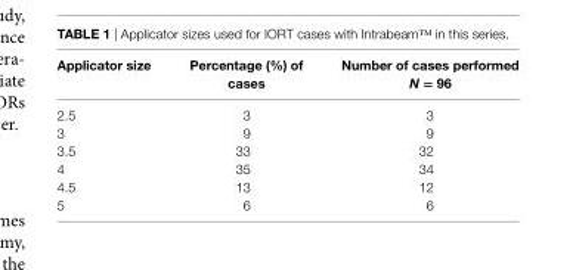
<table><thead><tr><td>applicator size</td><td>Percentage (%) of cases</td><td>number of cases performed N = 96</td></tr></thead><tbody><tr><td>2.5</td><td>3</td><td>3</td></tr><tr><td>3</td><td>9</td><td>9</td></tr><tr><td>3.5</td><td>33</td><td>32</td></tr><tr><td>4</td><td>35</td><td>34</td></tr><tr><td>4.5</td><td>13</td><td>12</td></tr><tr><td>5</td><td>6</td><td>6</td></tr></tbody></table>